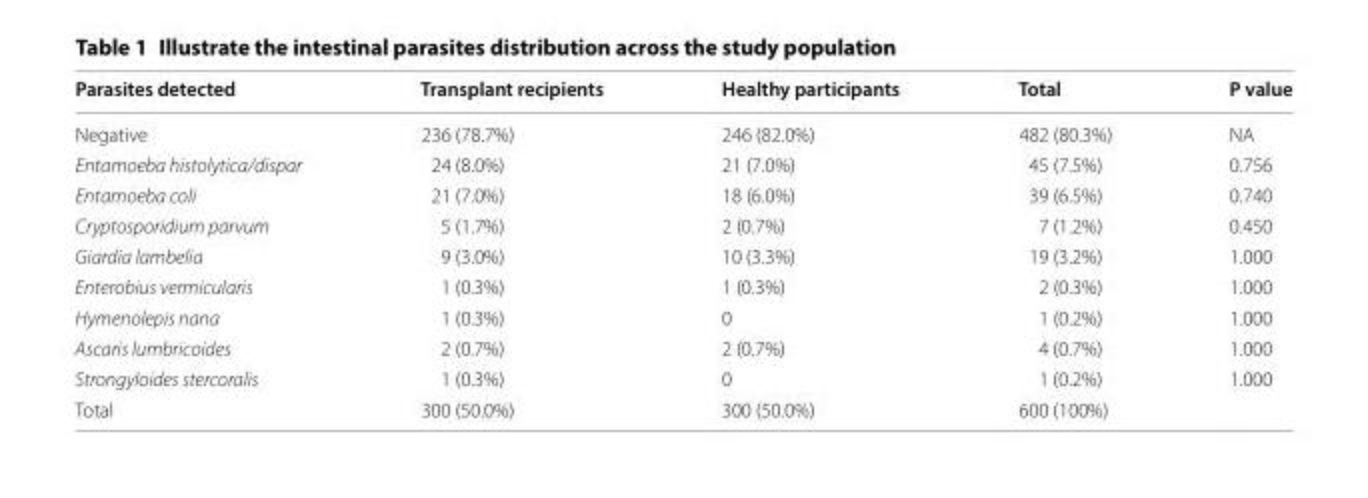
<table><thead><tr><td>Parasites detected</td><td>Transplant recipients</td><td>Healthy participants</td><td>Total</td><td>P value</td></tr></thead><tbody><tr><td>Negative</td><td>236 (78.7%)</td><td>246 (82.0%)</td><td>482 (80.3%)</td><td>NA</td></tr><tr><td>Entamoeba histolytica/dispar</td><td>24 (8.0%)</td><td>21 (7.0%)</td><td>45 (7.5%)</td><td>0.756</td></tr><tr><td>Entamoeba coli</td><td>21 (7.0%)</td><td>18 (6.0%)</td><td>39 (6.5%)</td><td>0.740</td></tr><tr><td>Cryptosporidium parvum</td><td>5 (1.7%)</td><td>2 (0.7%)</td><td>7 (1.2%)</td><td>0.450</td></tr><tr><td>Giardia lambelia</td><td>9 (3.0%)</td><td>10 (3.3%)</td><td>19 (3.2%)</td><td>1.000</td></tr><tr><td>Enterobius vermicularis</td><td>1 (0.3%)</td><td>1 (0.3%)</td><td>2 (0.3%)</td><td>1.000</td></tr><tr><td>Hymenolepis nana</td><td>1 (0.3%)</td><td>0</td><td>1 (0.2%)</td><td>1.000</td></tr><tr><td>Ascaris lumbricoides</td><td>2 (0.7%)</td><td>2 (0.7%)</td><td>4 (0.7%)</td><td>1.000</td></tr><tr><td>Strongyloides stercoralis</td><td>1 (0.3%)</td><td>0</td><td>1 (0.2%)</td><td>1.000</td></tr><tr><td>Total</td><td>300 (50.0%)</td><td>300 (50.0%)</td><td>600 (100%)</td><td></td></tr></tbody></table>